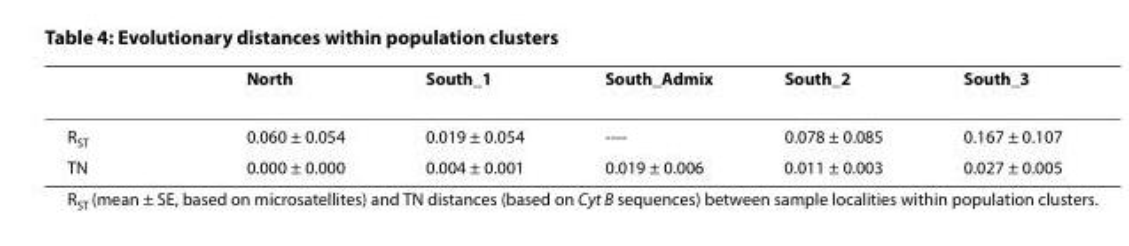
<table><thead><tr><td></td><td>North</td><td>South_1</td><td>South_Admix</td><td>South_2</td><td>South_3</td></tr></thead><tbody><tr><td>R<sub>ST</sub></td><td>0.060 ± 0.054</td><td>0.019 ± 0.054</td><td>----</td><td>0.078 ± 0.085</td><td>0.167 ± 0.107</td></tr><tr><td>TN</td><td>0.000 ± 0.000</td><td>0.004 ± 0.001</td><td>0.019 ± 0.006</td><td>0.011 ± 0.003</td><td>0.027 ± 0.005</td></tr></tbody></table>